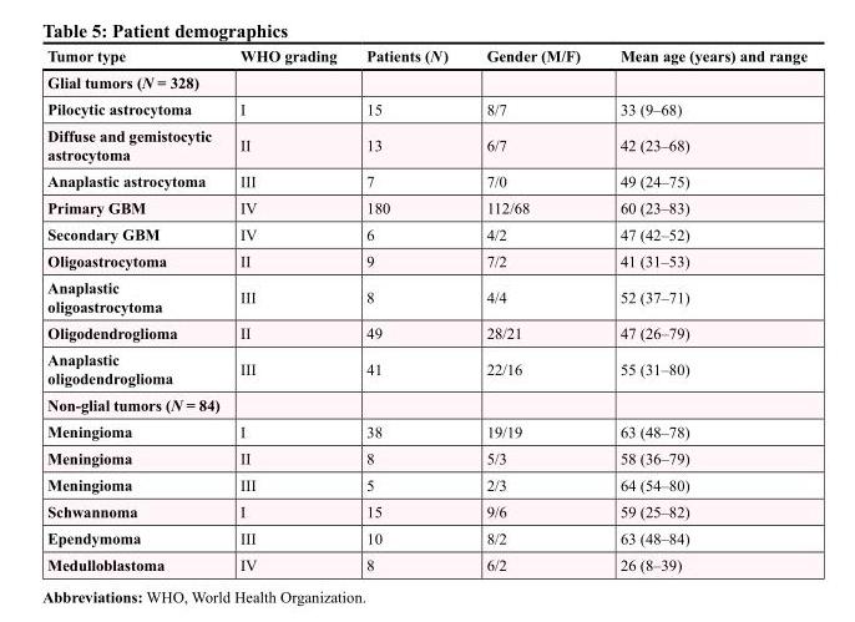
<table><thead><tr><td>Tumor type</td><td>WHO grading</td><td>Patients (N )</td><td>Gender (M/F)</td><td>Mean age (years) and range</td></tr></thead><tbody><tr><td colspan="5">Glial tumors (N = 328)</td></tr><tr><td>Pilocytic astrocytoma</td><td>I</td><td>15</td><td>8/7</td><td>33 (9–68)</td></tr><tr><td>Diffuse and gemistocytic astrocytoma</td><td>II</td><td>13</td><td>6/7</td><td>42 (23–68)</td></tr><tr><td>Anaplastic astrocytoma</td><td>III</td><td>7</td><td>7/0</td><td>49 (24–75)</td></tr><tr><td>Primary GBM</td><td>IV</td><td>180</td><td>112/68</td><td>60 (23–83)</td></tr><tr><td>Secondary GBM</td><td>IV</td><td>6</td><td>4/2</td><td>47 (42–52)</td></tr><tr><td>Oligoastrocytoma</td><td>II</td><td>9</td><td>7/2</td><td>41 (31–53)</td></tr><tr><td>Anaplastic oligoastrocytoma</td><td>III</td><td>8</td><td>4/4</td><td>52 (37–71)</td></tr><tr><td>Oligodendroglioma</td><td>II</td><td>49</td><td>28/21</td><td>47 (26–79)</td></tr><tr><td>Anaplastic oligodendroglioma</td><td>III</td><td>41</td><td>22/16</td><td>55 (31–80)</td></tr><tr><td colspan="5">Non-glial tumors (N = 84)</td></tr><tr><td>Meningioma</td><td>I</td><td>38</td><td>19/19</td><td>63 (48–78)</td></tr><tr><td>Meningioma</td><td>II</td><td>8</td><td>5/3</td><td>58 (36–79)</td></tr><tr><td>Meningioma</td><td>III</td><td>5</td><td>2/3</td><td>64 (54–80)</td></tr><tr><td>Schwannoma</td><td>I</td><td>15</td><td>9/6</td><td>59 (25–82)</td></tr><tr><td>Ependymoma</td><td>III</td><td>10</td><td>8/2</td><td>63 (48–84)</td></tr><tr><td>Medulloblastoma</td><td>IV</td><td>8</td><td>6/2</td><td>26 (8–39)</td></tr></tbody></table>